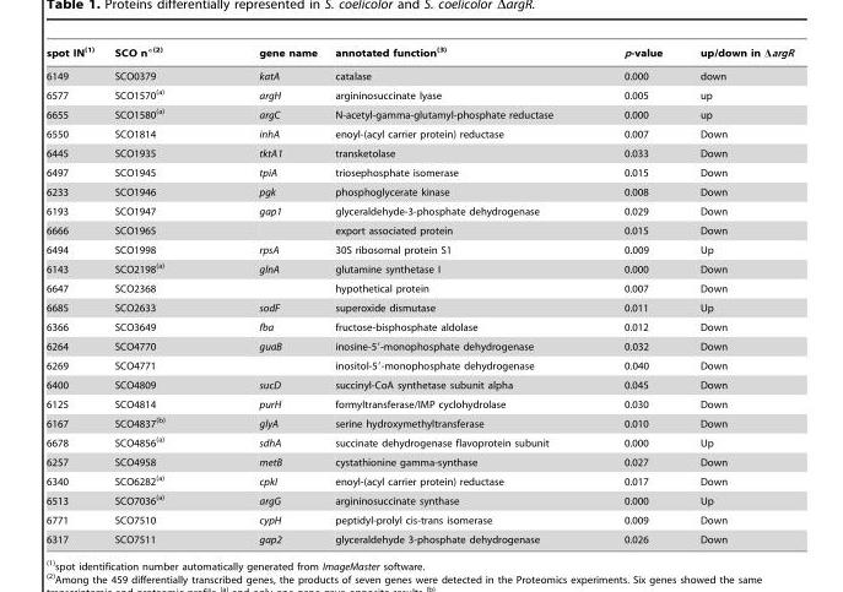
<table><thead><tr><td>spot IN(1)</td><td>SCO n°(2)</td><td>gene name</td><td>annotated function(3)</td><td>p-value</td><td>up/down in ΔargR</td></tr></thead><tbody><tr><td>6149</td><td>SCO0379</td><td>katA</td><td>catalase</td><td>0.000</td><td>down</td></tr><tr><td>6577</td><td>SCO1570<sup>(a)</sup></td><td>argH</td><td>argininosuccinate lyase</td><td>0.005</td><td>up</td></tr><tr><td>6655</td><td>SCO1580<sup>(a)</sup></td><td>argC</td><td>N-acetyl-gamma-glutamyl-phosphate reductase</td><td>0.000</td><td>up</td></tr><tr><td>6550</td><td>SCO1814</td><td>inhA</td><td>enoyl-(acyl carrier protein) reductase</td><td>0.007</td><td>Down</td></tr><tr><td>6445</td><td>SCO1935</td><td>tktA1</td><td>transketolase</td><td>0.033</td><td>Down</td></tr><tr><td>6497</td><td>SCO1945</td><td>tpiA</td><td>triosephosphate isomerase</td><td>0.015</td><td>Down</td></tr><tr><td>6233</td><td>SCO1946</td><td>pgk</td><td>phosphoglycerate kinase</td><td>0.008</td><td>Down</td></tr><tr><td>6193</td><td>SCO1947</td><td>gap1</td><td>glyceraldehyde-3-phosphate dehydrogenase</td><td>0.029</td><td>Down</td></tr><tr><td>6666</td><td>SCO1965</td><td></td><td>export associated protein</td><td>0.015</td><td>Down</td></tr><tr><td>6494</td><td>SCO1998</td><td>rpsA</td><td>30S ribosomal protein S1</td><td>0.009</td><td>Up</td></tr><tr><td>6143</td><td>SCO2198<sup>(a)</sup></td><td>glnA</td><td>glutamine synthetase I</td><td>0.000</td><td>Down</td></tr><tr><td>6647</td><td>SCO2368</td><td></td><td>hypothetical protein</td><td>0.007</td><td>Down</td></tr><tr><td>6685</td><td>SCO2633</td><td>sodF</td><td>superoxide dismutase</td><td>0.011</td><td>Up</td></tr><tr><td>6366</td><td>SCO3649</td><td>fba</td><td>fructose-bisphosphate aldolase</td><td>0.012</td><td>Down</td></tr><tr><td>6264</td><td>SCO4770</td><td>guaB</td><td>inosine-5′-monophosphate dehydrogenase</td><td>0.032</td><td>Down</td></tr><tr><td>6269</td><td>SCO4771</td><td></td><td>inositol-5′-monophosphate dehydrogenase</td><td>0.040</td><td>Down</td></tr><tr><td>6400</td><td>SCO4809</td><td>sucD</td><td>succinyl-CoA synthetase subunit alpha</td><td>0.045</td><td>Down</td></tr><tr><td>6125</td><td>SCO4814</td><td>purH</td><td>formyltransferase/IMP cyclohydrolase</td><td>0.030</td><td>Down</td></tr><tr><td>6167</td><td>SCO4837<sup>(b)</sup></td><td>glyA</td><td>serine hydroxymethyltransferase</td><td>0.010</td><td>Down</td></tr><tr><td>6678</td><td>SCO4856<sup>(a)</sup></td><td>sdhA</td><td>succinate dehydrogenase flavoprotein subunit</td><td>0.000</td><td>Up</td></tr><tr><td>6257</td><td>SCO4958</td><td>metB</td><td>cystathionine gamma-synthase</td><td>0.027</td><td>Down</td></tr><tr><td>6340</td><td>SCO6282<sup>(a)</sup></td><td>cpkI</td><td>enoyl-(acyl carrier protein) reductase</td><td>0.017</td><td>Down</td></tr><tr><td>6513</td><td>SCO7036<sup>(a)</sup></td><td>argG</td><td>argininosuccinate synthase</td><td>0.000</td><td>Up</td></tr><tr><td>6771</td><td>SCO7510</td><td>cypH</td><td>peptidyl-prolyl cis-trans isomerase</td><td>0.009</td><td>Down</td></tr><tr><td>6317</td><td>SCO7511</td><td>gap2</td><td>glyceraldehyde 3-phosphate dehydrogenase</td><td>0.026</td><td>Down</td></tr></tbody></table>